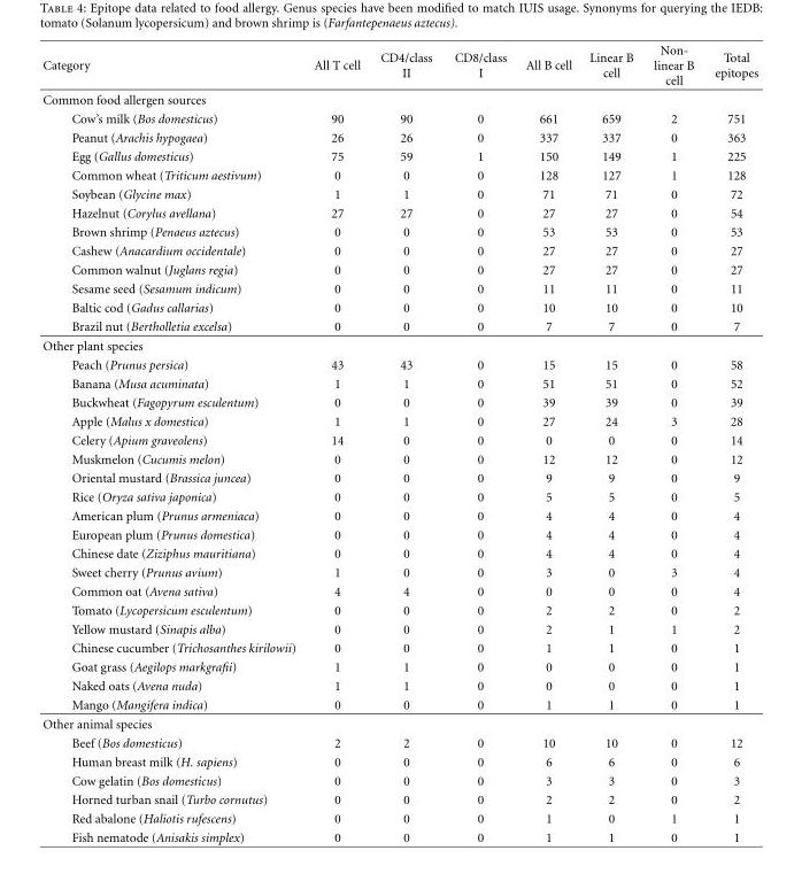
<table><thead><tr><td>Category</td><td>All T cell</td><td>CD4/class II</td><td>CD8/class I</td><td>All B cell</td><td>Linear B cell</td><td>Non- linear B cell</td><td>Total epitopes</td></tr></thead><tbody><tr><td colspan="8">Common food allergen sources</td></tr><tr><td>Cow’s milk (Bos domesticus)</td><td>90</td><td>90</td><td>0</td><td>661</td><td>659</td><td>2</td><td>751</td></tr><tr><td>Peanut (Arachis hypogaea)</td><td>26</td><td>26</td><td>0</td><td>337</td><td>337</td><td>0</td><td>363</td></tr><tr><td>Egg (Gallus domesticus)</td><td>75</td><td>59</td><td>1</td><td>150</td><td>149</td><td>1</td><td>225</td></tr><tr><td>Common wheat (Triticum aestivum)</td><td>0</td><td>0</td><td>0</td><td>128</td><td>127</td><td>1</td><td>128</td></tr><tr><td>Soybean (Glycine max)</td><td>1</td><td>1</td><td>0</td><td>71</td><td>71</td><td>0</td><td>72</td></tr><tr><td>Hazelnut (Corylus avellana)</td><td>27</td><td>27</td><td>0</td><td>27</td><td>27</td><td>0</td><td>54</td></tr><tr><td>Brown shrimp (Penaeus aztecus)</td><td>0</td><td>0</td><td>0</td><td>53</td><td>53</td><td>0</td><td>53</td></tr><tr><td>Cashew (Anacardium occidentale)</td><td>0</td><td>0</td><td>0</td><td>27</td><td>27</td><td>0</td><td>27</td></tr><tr><td>Common walnut (Juglans regia)</td><td>0</td><td>0</td><td>0</td><td>27</td><td>27</td><td>0</td><td>27</td></tr><tr><td>Sesame seed (Sesamum indicum)</td><td>0</td><td>0</td><td>0</td><td>11</td><td>11</td><td>0</td><td>11</td></tr><tr><td>Baltic cod (Gadus callarias)</td><td>0</td><td>0</td><td>0</td><td>10</td><td>10</td><td>0</td><td>10</td></tr><tr><td>Brazil nut (Bertholletia excelsa)</td><td>0</td><td>0</td><td>0</td><td>7</td><td>7</td><td>0</td><td>7</td></tr><tr><td colspan="8">Other plant species</td></tr><tr><td>Peach (Prunus persica)</td><td>43</td><td>43</td><td>0</td><td>15</td><td>15</td><td>0</td><td>58</td></tr><tr><td>Banana (Musa acuminata)</td><td>1</td><td>1</td><td>0</td><td>51</td><td>51</td><td>0</td><td>52</td></tr><tr><td>Buckwheat (Fagopyrum esculentum)</td><td>0</td><td>0</td><td>0</td><td>39</td><td>39</td><td>0</td><td>39</td></tr><tr><td>Apple (Malus x domestica)</td><td>1</td><td>1</td><td>0</td><td>27</td><td>24</td><td>3</td><td>28</td></tr><tr><td>Celery (Apium graveolens)</td><td>14</td><td>0</td><td>0</td><td>0</td><td>0</td><td>0</td><td>14</td></tr><tr><td>Muskmelon (Cucumis melon)</td><td>0</td><td>0</td><td>0</td><td>12</td><td>12</td><td>0</td><td>12</td></tr><tr><td>Oriental mustard (Brassica juncea)</td><td>0</td><td>0</td><td>0</td><td>9</td><td>9</td><td>0</td><td>9</td></tr><tr><td>Rice (Oryza sativa japonica)</td><td>0</td><td>0</td><td>0</td><td>5</td><td>5</td><td>0</td><td>5</td></tr><tr><td>American plum (Prunus armeniaca)</td><td>0</td><td>0</td><td>0</td><td>4</td><td>4</td><td>0</td><td>4</td></tr><tr><td>European plum (Prunus domestica)</td><td>0</td><td>0</td><td>0</td><td>4</td><td>4</td><td>0</td><td>4</td></tr><tr><td>Chinese date (Ziziphus mauritiana)</td><td>0</td><td>0</td><td>0</td><td>4</td><td>4</td><td>0</td><td>4</td></tr><tr><td>Sweet cherry (Prunus avium)</td><td>1</td><td>0</td><td>0</td><td>3</td><td>0</td><td>3</td><td>4</td></tr><tr><td>Common oat (Avena sativa)</td><td>4</td><td>4</td><td>0</td><td>0</td><td>0</td><td>0</td><td>4</td></tr><tr><td>Tomato (Lycopersicum esculentum)</td><td>0</td><td>0</td><td>0</td><td>2</td><td>2</td><td>0</td><td>2</td></tr><tr><td>Yellow mustard (Sinapis alba)</td><td>0</td><td>0</td><td>0</td><td>2</td><td>1</td><td>1</td><td>2</td></tr><tr><td>Chinese cucumber (Trichosanthes kirilowii)</td><td>0</td><td>0</td><td>0</td><td>1</td><td>1</td><td>0</td><td>1</td></tr><tr><td>Goat grass (Aegilops markgrafii)</td><td>1</td><td>1</td><td>0</td><td>0</td><td>0</td><td>0</td><td>1</td></tr><tr><td>Naked oats (Avena nuda)</td><td>1</td><td>1</td><td>0</td><td>0</td><td>0</td><td>0</td><td>1</td></tr><tr><td>Mango (Mangifera indica)</td><td>0</td><td>0</td><td>0</td><td>1</td><td>1</td><td>0</td><td>1</td></tr><tr><td colspan="8">Other animal species</td></tr><tr><td>Beef (Bos domesticus)</td><td>2</td><td>2</td><td>0</td><td>10</td><td>10</td><td>0</td><td>12</td></tr><tr><td>Human breast milk (H. sapiens)</td><td>0</td><td>0</td><td>0</td><td>6</td><td>6</td><td>0</td><td>6</td></tr><tr><td>Cow gelatin (Bos domesticus)</td><td>0</td><td>0</td><td>0</td><td>3</td><td>3</td><td>0</td><td>3</td></tr><tr><td>Horned turban snail (Turbo cornutus)</td><td>0</td><td>0</td><td>0</td><td>2</td><td>2</td><td>0</td><td>2</td></tr><tr><td>Red abalone (Haliotis rufescens)</td><td>0</td><td>0</td><td>0</td><td>1</td><td>0</td><td>1</td><td>1</td></tr><tr><td>Fish nematode (Anisakis simplex)</td><td>0</td><td>0</td><td>0</td><td>1</td><td>1</td><td>0</td><td>1</td></tr></tbody></table>